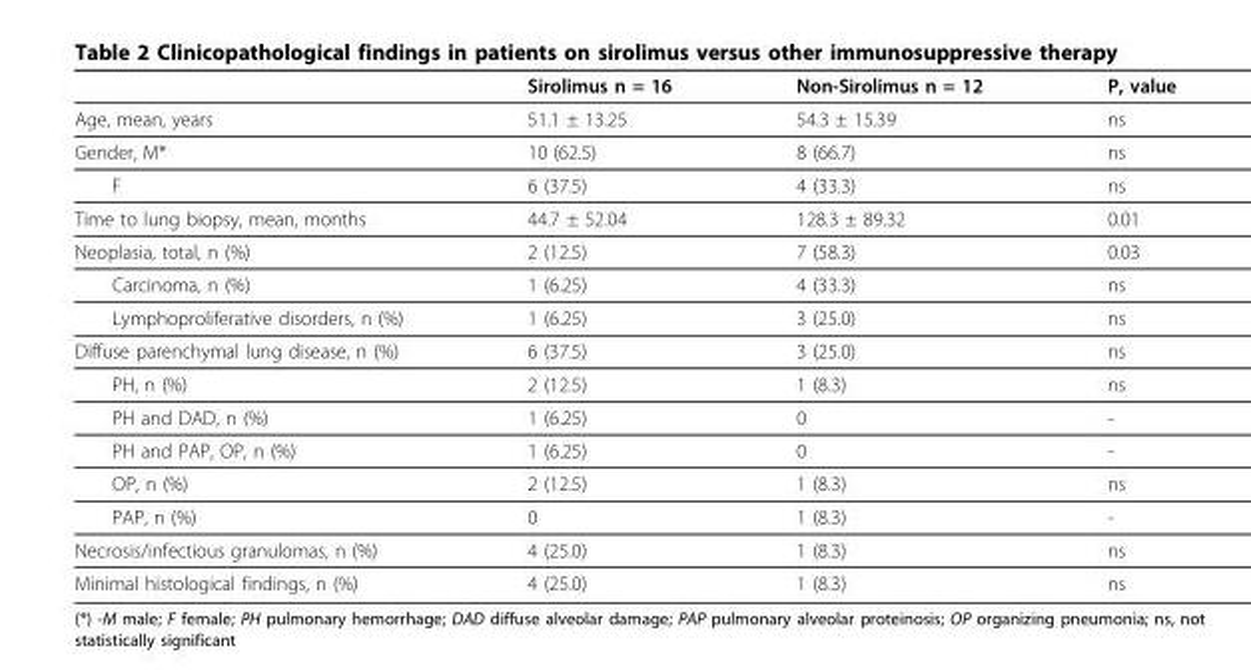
<table><thead><tr><td></td><td>Sirolimus n = 16</td><td>Non-Sirolimus n = 12</td><td>P, value</td></tr></thead><tbody><tr><td>Age, mean, years</td><td>51.1 ± 13.25</td><td>54.3 ± 15.39</td><td>ns</td></tr><tr><td>Gender, M*</td><td>10 (62.5)</td><td>8 (66.7)</td><td>ns</td></tr><tr><td>F</td><td>6 (37.5)</td><td>4 (33.3)</td><td>ns</td></tr><tr><td>Time to lung biopsy, mean, months</td><td>44.7 ± 52.04</td><td>128.3 ± 89.32</td><td>0.01</td></tr><tr><td>Neoplasia, total, n (%)</td><td>2 (12.5)</td><td>7 (58.3)</td><td>0.03</td></tr><tr><td>Carcinoma, n (%)</td><td>1 (6.25)</td><td>4 (33.3)</td><td>ns</td></tr><tr><td>Lymphoproliferative disorders, n (%)</td><td>1 (6.25)</td><td>3 (25.0)</td><td>ns</td></tr><tr><td>Diffuse parenchymal lung disease, n (%)</td><td>6 (37.5)</td><td>3 (25.0)</td><td>ns</td></tr><tr><td>PH, n (%)</td><td>2 (12.5)</td><td>1 (8.3)</td><td>ns</td></tr><tr><td>PH and DAD, n (%)</td><td>1 (6.25)</td><td>0</td><td>-</td></tr><tr><td>PH and PAP, OP, n (%)</td><td>1 (6.25)</td><td>0</td><td>-</td></tr><tr><td>OP, n (%)</td><td>2 (12.5)</td><td>1 (8.3)</td><td>ns</td></tr><tr><td>PAP, n (%)</td><td>0</td><td>1 (8.3)</td><td>-</td></tr><tr><td>Necrosis/infectious granulomas, n (%)</td><td>4 (25.0)</td><td>1 (8.3)</td><td>ns</td></tr><tr><td>Minimal histological findings, n (%)</td><td>4 (25.0)</td><td>1 (8.3)</td><td>ns</td></tr></tbody></table>